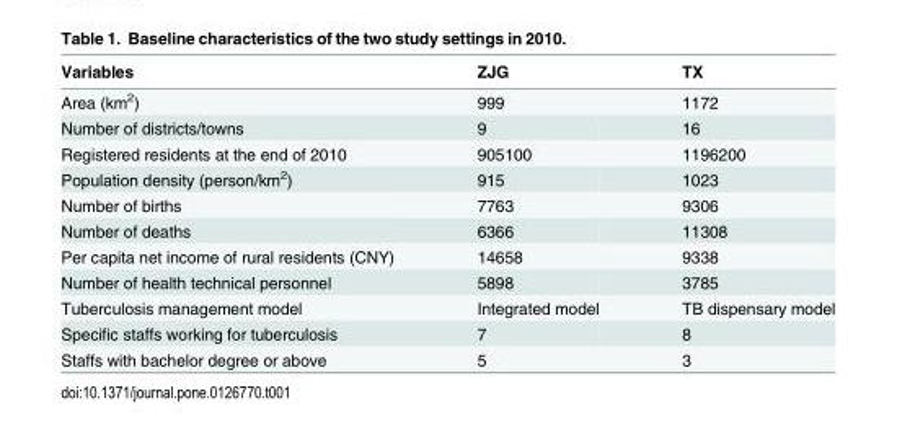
<table><thead><tr><td>Variables</td><td>ZJG</td><td>TX</td></tr></thead><tbody><tr><td>Area (km<sup>2</sup>)</td><td>999</td><td>1172</td></tr><tr><td>Number of districts/towns</td><td>9</td><td>16</td></tr><tr><td>Registered residents at the end of 2010</td><td>905100</td><td>1196200</td></tr><tr><td>Population density (person/km<sup>2</sup>)</td><td>915</td><td>1023</td></tr><tr><td>Number of births</td><td>7763</td><td>9306</td></tr><tr><td>Number of deaths</td><td>6366</td><td>11308</td></tr><tr><td>Per capita net income of rural residents (CNY)</td><td>14658</td><td>9338</td></tr><tr><td>Number of health technical personnel</td><td>5898</td><td>3785</td></tr><tr><td>Tuberculosis management model</td><td>Integrated model</td><td>TB dispensary model</td></tr><tr><td>Specific staffs working for tuberculosis</td><td>7</td><td>8</td></tr><tr><td>Staffs with bachelor degree or above</td><td>5</td><td>3</td></tr></tbody></table>